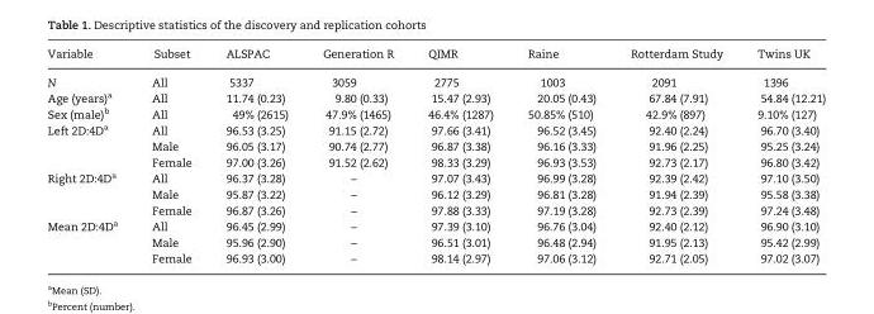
<table><thead><tr><td>Variable</td><td>Subset</td><td>ALSPAC</td><td>Generation R</td><td>QIMR</td><td>Raine</td><td>Rotterdam Study</td><td>Twins UK</td></tr></thead><tbody><tr><td>N</td><td>All</td><td>5337</td><td>3059</td><td>2775</td><td>1003</td><td>2091</td><td>1396</td></tr><tr><td>Age (years)<sup>a</sup></td><td>All</td><td>11.74 (0.23)</td><td>9.80 (0.33)</td><td>15.47 (2.93)</td><td>20.05 (0.43)</td><td>67.84 (7.91)</td><td>54.84 (12.21)</td></tr><tr><td>Sex (male)<sup>b</sup></td><td>All</td><td>49% (2615)</td><td>47.9% (1465)</td><td>46.4% (1287)</td><td>50.85% (510)</td><td>42.9% (897)</td><td>9.10% (127)</td></tr><tr><td rowspan="3">Left 2D:4D<sup>a</sup></td><td>All</td><td>96.53 (3.25)</td><td>91.15 (2.72)</td><td>97.66 (3.41)</td><td>96.52 (3.45)</td><td>92.40 (2.24)</td><td>96.70 (3.40)</td></tr><tr><td>Male</td><td>96.05 (3.17)</td><td>90.74 (2.77)</td><td>96.87 (3.38)</td><td>96.16 (3.33)</td><td>91.96 (2.25)</td><td>95.25 (3.24)</td></tr><tr><td>Female</td><td>97.00 (3.26)</td><td>91.52 (2.62)</td><td>98.33 (3.29)</td><td>96.93 (3.53)</td><td>92.73 (2.17)</td><td>96.80 (3.42)</td></tr><tr><td rowspan="3">Right 2D:4D<sup>a</sup></td><td>All</td><td>96.37 (3.28)</td><td>–</td><td>97.07 (3.43)</td><td>96.99 (3.28)</td><td>92.39 (2.42)</td><td>97.10 (3.50)</td></tr><tr><td>Male</td><td>95.87 (3.22)</td><td>–</td><td>96.12 (3.29)</td><td>96.81 (3.28)</td><td>91.94 (2.39)</td><td>95.58 (3.38)</td></tr><tr><td>Female</td><td>96.87 (3.26)</td><td>–</td><td>97.88 (3.33)</td><td>97.19 (3.28)</td><td>92.73 (2.39)</td><td>97.24 (3.48)</td></tr><tr><td rowspan="3">Mean 2D:4D<sup>a</sup></td><td>All</td><td>96.45 (2.99)</td><td>–</td><td>97.39 (3.10)</td><td>96.76 (3.04)</td><td>92.40 (2.12)</td><td>96.90 (3.10)</td></tr><tr><td>Male</td><td>95.96 (2.90)</td><td>–</td><td>96.51 (3.01)</td><td>96.48 (2.94)</td><td>91.95 (2.13)</td><td>95.42 (2.99)</td></tr><tr><td>Female</td><td>96.93 (3.00)</td><td>–</td><td>98.14 (2.97)</td><td>97.06 (3.12)</td><td>92.71 (2.05)</td><td>97.02 (3.07)</td></tr></tbody></table>